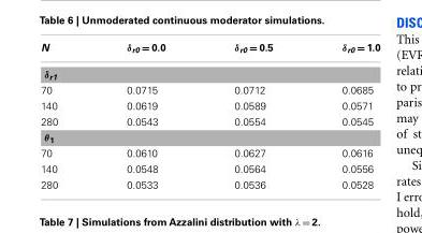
<table><thead><tr><td>N</td><td>δ<sub>r0</sub> = 0.0</td><td>δ<sub>r0</sub> = 0.5</td><td>δ<sub>r0</sub> = 1.0</td></tr></thead><tbody><tr><td colspan="4">δ<sub>r1</sub></td></tr><tr><td>70</td><td>0.0715</td><td>0.0712</td><td>0.0685</td></tr><tr><td>140</td><td>0.0619</td><td>0.0589</td><td>0.0571</td></tr><tr><td>280</td><td>0.0543</td><td>0.0554</td><td>0.0545</td></tr><tr><td colspan="4">θ<sub>1</sub></td></tr><tr><td>70</td><td>0.0610</td><td>0.0627</td><td>0.0616</td></tr><tr><td>140</td><td>0.0548</td><td>0.0564</td><td>0.0556</td></tr><tr><td>280</td><td>0.0533</td><td>0.0536</td><td>0.0528</td></tr></tbody></table>